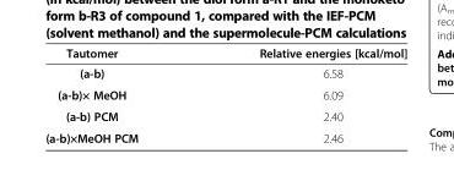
<table><thead><tr><td>Tautomer</td><td>Relative energies [kcal/mol]</td></tr></thead><tbody><tr><td>(a-b)</td><td>6.58</td></tr><tr><td>(a-b)× MeOH</td><td>6.09</td></tr><tr><td>(a-b) PCM</td><td>2.40</td></tr><tr><td>(a-b)×MeOH PCM</td><td>2.46</td></tr></tbody></table>